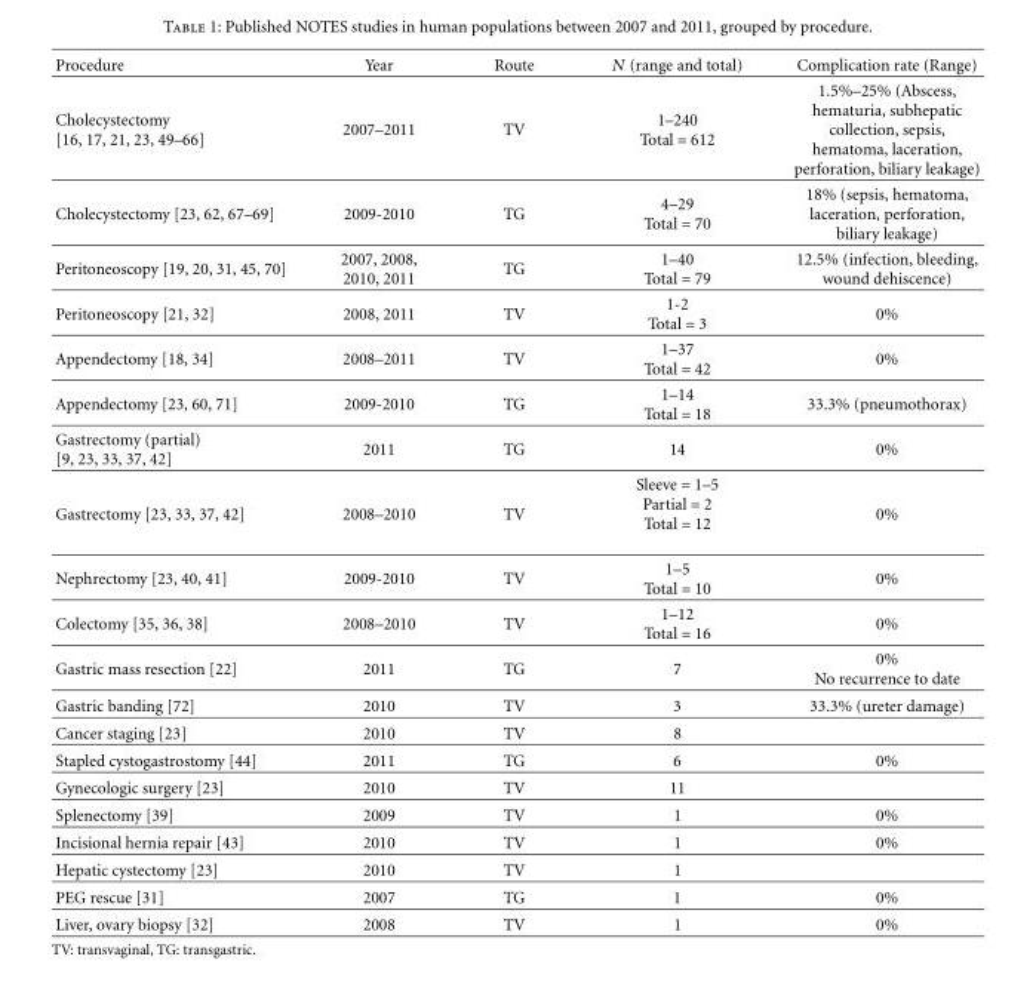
<table><thead><tr><td>Procedure</td><td>Year</td><td>Route</td><td>N (range and total)</td><td>Complication rate (Range)</td></tr></thead><tbody><tr><td>Cholecystectomy [16, 17, 21, 23, 49–66]</td><td>2007–2011</td><td>TV</td><td>1–240 Total = 612</td><td>1.5%–25% (Abscess, hematuria, subhepatic collection, sepsis, hematoma, laceration, perforation, biliary leakage)</td></tr><tr><td>Cholecystectomy [23, 62, 67–69]</td><td>2009-2010</td><td>TG</td><td>4–29 Total = 70</td><td>18% (sepsis, hematoma, laceration, perforation, biliary leakage)</td></tr><tr><td>Peritoneoscopy [19, 20, 31, 45, 70]</td><td>2007, 2008, 2010, 2011</td><td>TG</td><td>1–40 Total = 79</td><td>12.5% (infection, bleeding, wound dehiscence)</td></tr><tr><td>Peritoneoscopy [21, 32]</td><td>2008, 2011</td><td>TV</td><td>1-2 Total = 3</td><td>0%</td></tr><tr><td>Appendectomy [18, 34]</td><td>2008–2011</td><td>TV</td><td>1–37 Total = 42</td><td>0%</td></tr><tr><td>Appendectomy [23, 60, 71]</td><td>2009-2010</td><td>TG</td><td>1–14 Total = 18</td><td>33.3% (pneumothorax)</td></tr><tr><td>Gastrectomy (partial) [9, 23, 33, 37, 42]</td><td>2011</td><td>TG</td><td>14</td><td>0%</td></tr><tr><td>Gastrectomy [23, 33, 37, 42]</td><td>2008–2010</td><td>TV</td><td>Sleeve = 1–5 Partial = 2 Total = 12</td><td>0%</td></tr><tr><td>Nephrectomy [23, 40, 41]</td><td>2009-2010</td><td>TV</td><td>1–5 Total = 10</td><td>0%</td></tr><tr><td>Colectomy [35, 36, 38]</td><td>2008–2010</td><td>TV</td><td>1–12 Total = 16</td><td>0%</td></tr><tr><td>Gastric mass resection [22]</td><td>2011</td><td>TG</td><td>7</td><td>0% No recurrence to date</td></tr><tr><td>Gastric banding [72]</td><td>2010</td><td>TV</td><td>3</td><td>33.3% (ureter damage)</td></tr><tr><td>Cancer staging [23]</td><td>2010</td><td>TV</td><td>8</td><td></td></tr><tr><td>Stapled cystogastrostomy [44]</td><td>2011</td><td>TG</td><td>6</td><td>0%</td></tr><tr><td>Gynecologic surgery [23]</td><td>2010</td><td>TV</td><td>11</td><td></td></tr><tr><td>Splenectomy [39]</td><td>2009</td><td>TV</td><td>1</td><td>0%</td></tr><tr><td>Incisional hernia repair [43]</td><td>2010</td><td>TV</td><td>1</td><td>0%</td></tr><tr><td>Hepatic cystectomy [23]</td><td>2010</td><td>TV</td><td>1</td><td></td></tr><tr><td>PEG rescue [31]</td><td>2007</td><td>TG</td><td>1</td><td>0%</td></tr><tr><td>Liver, ovary biopsy [32]</td><td>2008</td><td>TV</td><td>1</td><td>0%</td></tr></tbody></table>